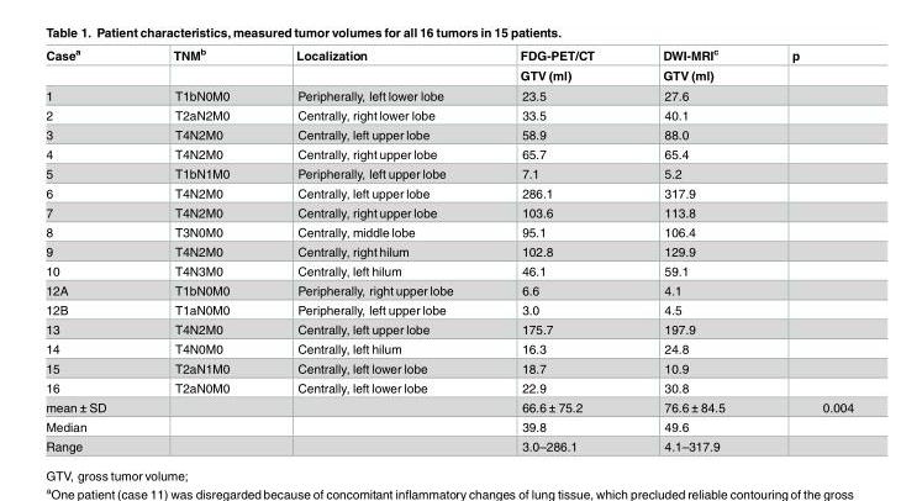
<table><thead><tr><td rowspan="2">Case<sup>a</sup></td><td rowspan="2">TNM<sup>b</sup></td><td rowspan="2">Localization</td><td rowspan="2">FDG-PET/CT GTV (ml)</td><td rowspan="2">DWI-MRI<sup>c</sup> GTV (ml)</td><td rowspan="2">p</td></tr><tr></tr></thead><tbody><tr><td>1</td><td>T1bN0M0</td><td>Peripherally, left lower lobe</td><td>23.5</td><td>27.6</td><td></td></tr><tr><td>2</td><td>T2aN2M0</td><td>Centrally, right lower lobe</td><td>33.5</td><td>40.1</td><td></td></tr><tr><td>3</td><td>T4N2M0</td><td>Centrally, left upper lobe</td><td>58.9</td><td>88.0</td><td></td></tr><tr><td>4</td><td>T4N2M0</td><td>Centrally, right upper lobe</td><td>65.7</td><td>65.4</td><td></td></tr><tr><td>5</td><td>T1bN1M0</td><td>Peripherally, left upper lobe</td><td>7.1</td><td>5.2</td><td></td></tr><tr><td>6</td><td>T4N2M0</td><td>Centrally, left upper lobe</td><td>286.1</td><td>317.9</td><td></td></tr><tr><td>7</td><td>T4N2M0</td><td>Centrally, right upper lobe</td><td>103.6</td><td>113.8</td><td></td></tr><tr><td>8</td><td>T3N0M0</td><td>Centrally, middle lobe</td><td>95.1</td><td>106.4</td><td></td></tr><tr><td>9</td><td>T4N2M0</td><td>Centrally, right hilum</td><td>102.8</td><td>129.9</td><td></td></tr><tr><td>10</td><td>T4N3M0</td><td>Centrally, left hilum</td><td>46.1</td><td>59.1</td><td></td></tr><tr><td>12A</td><td>T1bN0M0</td><td>Peripherally, right upper lobe</td><td>6.6</td><td>4.1</td><td></td></tr><tr><td>12B</td><td>T1aN0M0</td><td>Peripherally, left upper lobe</td><td>3.0</td><td>4.5</td><td></td></tr><tr><td>13</td><td>T4N2M0</td><td>Centrally, left upper lobe</td><td>175.7</td><td>197.9</td><td></td></tr><tr><td>14</td><td>T4N0M0</td><td>Centrally, left hilum</td><td>16.3</td><td>24.8</td><td></td></tr><tr><td>15</td><td>T2aN1M0</td><td>Centrally, left lower lobe</td><td>18.7</td><td>10.9</td><td></td></tr><tr><td>16</td><td>T2aN0M0</td><td>Centrally, left lower lobe</td><td>22.9</td><td>30.8</td><td></td></tr><tr><td>mean ± SD</td><td></td><td></td><td>66.6 ± 75.2</td><td>76.6 ± 84.5</td><td>0.004</td></tr><tr><td>Median</td><td></td><td></td><td>39.8</td><td>49.6</td><td></td></tr><tr><td>Range</td><td></td><td></td><td>3.0–286.1</td><td>4.1–317.9</td><td></td></tr></tbody></table>